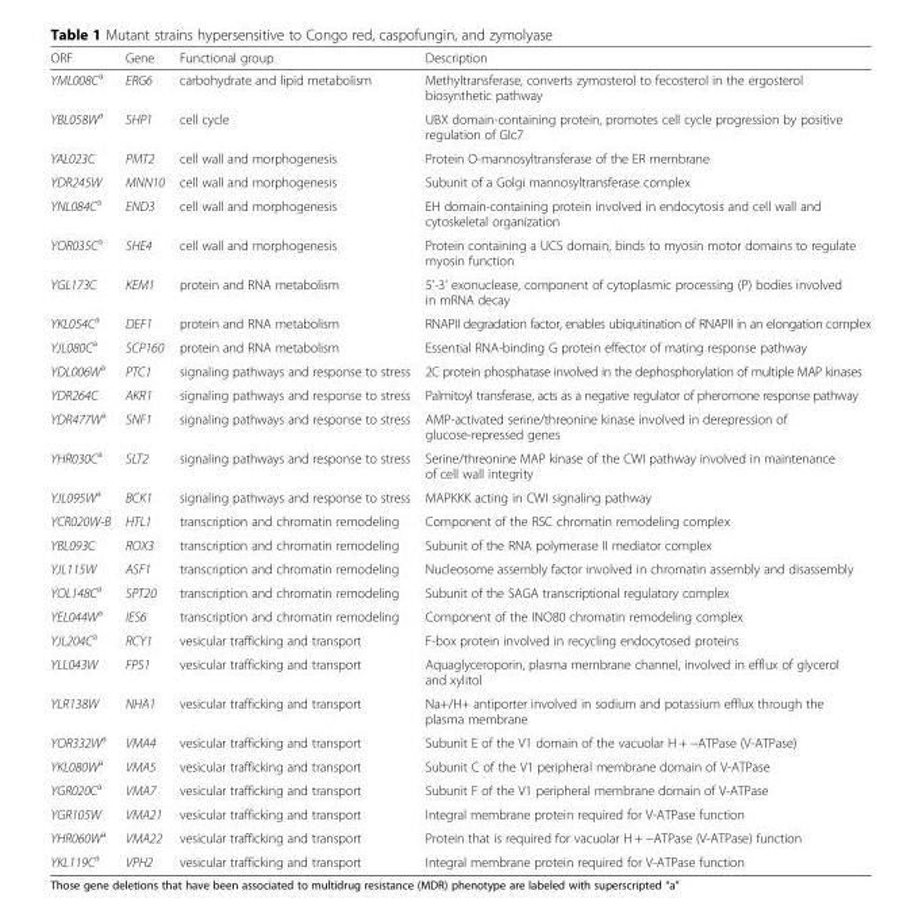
<table><thead><tr><td>ORF</td><td>Gene</td><td>Functional group</td><td>Description</td></tr></thead><tbody><tr><td>YML008C<sup>a</sup></td><td>ERG6</td><td>carbohydrate and lipid metabolism</td><td>Methyltransferase, converts zymosterol to fecosterol in the ergosterol biosynthetic pathway</td></tr><tr><td>YBL058W<sup>a</sup></td><td>SHP1</td><td>cell cycle</td><td>UBX domain-containing protein, promotes cell cycle progression by positive regulation of Glc7</td></tr><tr><td>YAL023C</td><td>PMT2</td><td>cell wall and morphogenesis</td><td>Protein O-mannosyltransferase of the ER membrane</td></tr><tr><td>YDR245W</td><td>MNN10</td><td>cell wall and morphogenesis</td><td>Subunit of a Golgi mannosyltransferase complex</td></tr><tr><td>YNL084C<sup>a</sup></td><td>END3</td><td>cell wall and morphogenesis</td><td>EH domain-containing protein involved in endocytosis and cell wall and cytoskeletal organization</td></tr><tr><td>YOR035C<sup>a</sup></td><td>SHE4</td><td>cell wall and morphogenesis</td><td>Protein containing a UCS domain, binds to myosin motor domains to regulate myosin function</td></tr><tr><td>YGL173C</td><td>KEM1</td><td>protein and RNA metabolism</td><td>5&#x27;-3&#x27; exonuclease, component of cytoplasmic processing (P) bodies involved in mRNA decay</td></tr><tr><td>YKL054C<sup>a</sup></td><td>DEF1</td><td>protein and RNA metabolism</td><td>RNAPII degradation factor, enables ubiquitination of RNAPII in an elongation complex</td></tr><tr><td>YJL080C<sup>a</sup></td><td>SCP160</td><td>protein and RNA metabolism</td><td>Essential RNA-binding G protein effector of mating response pathway</td></tr><tr><td>YDL006W<sup>a</sup></td><td>PTC1</td><td>signaling pathways and response to stress</td><td>2C protein phosphatase involved in the dephosphorylation of multiple MAP kinases</td></tr><tr><td>YDR264C</td><td>AKR1</td><td>signaling pathways and response to stress</td><td>Palmitoyl transferase, acts as a negative regulator of pheromone response pathway</td></tr><tr><td>YDR477W<sup>a</sup></td><td>SNF1</td><td>signaling pathways and response to stress</td><td>AMP-activated serine/threonine kinase involved in derepression of glucose-repressed genes</td></tr><tr><td>YHR030C<sup>a</sup></td><td>SLT2</td><td>signaling pathways and response to stress</td><td>Serine/threonine MAP kinase of the CWI pathway involved in maintenance of cell wall integrity</td></tr><tr><td>YJL095W<sup>a</sup></td><td>BCK1</td><td>signaling pathways and response to stress</td><td>MAPKKK acting in CWI signaling pathway</td></tr><tr><td>YCR020W-B</td><td>HTL1</td><td>transcription and chromatin remodeling</td><td>Component of the RSC chromatin remodeling complex</td></tr><tr><td>YBL093C</td><td>ROX3</td><td>transcription and chromatin remodeling</td><td>Subunit of the RNA polymerase II mediator complex</td></tr><tr><td>YJL115W</td><td>ASF1</td><td>transcription and chromatin remodeling</td><td>Nucleosome assembly factor involved in chromatin assembly and disassembly</td></tr><tr><td>YOL148C<sup>a</sup></td><td>SPT20</td><td>transcription and chromatin remodeling</td><td>Subunit of the SAGA transcriptional regulatory complex</td></tr><tr><td>YEL044W<sup>a</sup></td><td>IES6</td><td>transcription and chromatin remodeling</td><td>Component of the INO80 chromatin remodeling complex</td></tr><tr><td>YJL204C<sup>a</sup></td><td>RCY1</td><td>vesicular trafficking and transport</td><td>F-box protein involved in recycling endocytosed proteins</td></tr><tr><td>YLL043W</td><td>FPS1</td><td>vesicular trafficking and transport</td><td>Aquaglyceroporin, plasma membrane channel, involved in efflux of glycerol and xylitol</td></tr><tr><td>YLR138W</td><td>NHA1</td><td>vesicular trafficking and transport</td><td>Na+/H+ antiporter involved in sodium and potassium efflux through the plasma membrane</td></tr><tr><td>YOR332W<sup>a</sup></td><td>VMA4</td><td>vesicular trafficking and transport</td><td>Subunit E of the V1 domain of the vacuolar H + −ATPase (V-ATPase)</td></tr><tr><td>YKL080W<sup>a</sup></td><td>VMA5</td><td>vesicular trafficking and transport</td><td>Subunit C of the V1 peripheral membrane domain of V-ATPase</td></tr><tr><td>YGR020C<sup>a</sup></td><td>VMA7</td><td>vesicular trafficking and transport</td><td>Subunit F of the V1 peripheral membrane domain of V-ATPase</td></tr><tr><td>YGR105W</td><td>VMA21</td><td>vesicular trafficking and transport</td><td>Integral membrane protein required for V-ATPase function</td></tr><tr><td>YHR060W<sup>a</sup></td><td>VMA22</td><td>vesicular trafficking and transport</td><td>Protein that is required for vacuolar H + −ATPase (V-ATPase) function</td></tr><tr><td>YKL119C<sup>a</sup></td><td>VPH2</td><td>vesicular trafficking and transport</td><td>Integral membrane protein required for V-ATPase function</td></tr></tbody></table>